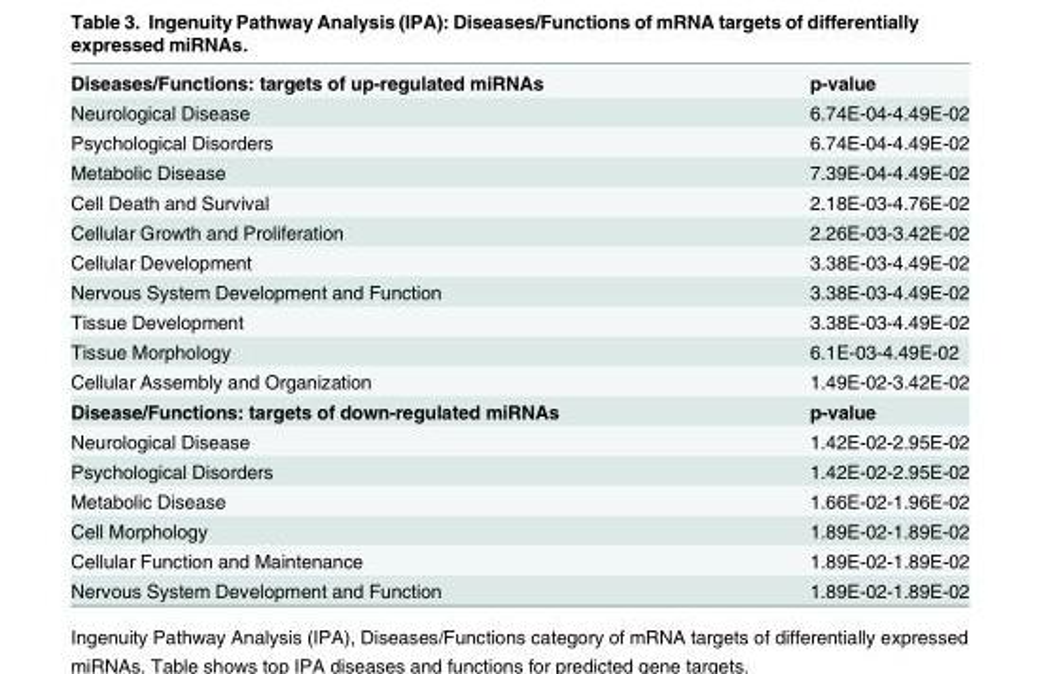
<table><tbody><tr><td>Diseases/Functions: targets of up-regulated miRNAs</td><td>p-value</td></tr><tr><td>Neurological Disease</td><td>6.74E-04-4.49E-02</td></tr><tr><td>Psychological Disorders</td><td>6.74E-04-4.49E-02</td></tr><tr><td>Metabolic Disease</td><td>7.39E-04-4.49E-02</td></tr><tr><td>Cell Death and Survival</td><td>2.18E-03-4.76E-02</td></tr><tr><td>Cellular Growth and Proliferation</td><td>2.26E-03-3.42E-02</td></tr><tr><td>Cellular Development</td><td>3.38E-03-4.49E-02</td></tr><tr><td>Nervous System Development and Function</td><td>3.38E-03-4.49E-02</td></tr><tr><td>Tissue Development</td><td>3.38E-03-4.49E-02</td></tr><tr><td>Tissue Morphology</td><td>6.1E-03-4.49E-02</td></tr><tr><td>Cellular Assembly and Organization</td><td>1.49E-02-3.42E-02</td></tr><tr><td>Disease/Functions: targets of down-regulated miRNAs</td><td>p-value</td></tr><tr><td>Neurological Disease</td><td>1.42E-02-2.95E-02</td></tr><tr><td>Psychological Disorders</td><td>1.42E-02-2.95E-02</td></tr><tr><td>Metabolic Disease</td><td>1.66E-02-1.96E-02</td></tr><tr><td>Cell Morphology</td><td>1.89E-02-1.89E-02</td></tr><tr><td>Cellular Function and Maintenance</td><td>1.89E-02-1.89E-02</td></tr><tr><td>Nervous System Development and Function</td><td>1.89E-02-1.89E-02</td></tr></tbody></table>